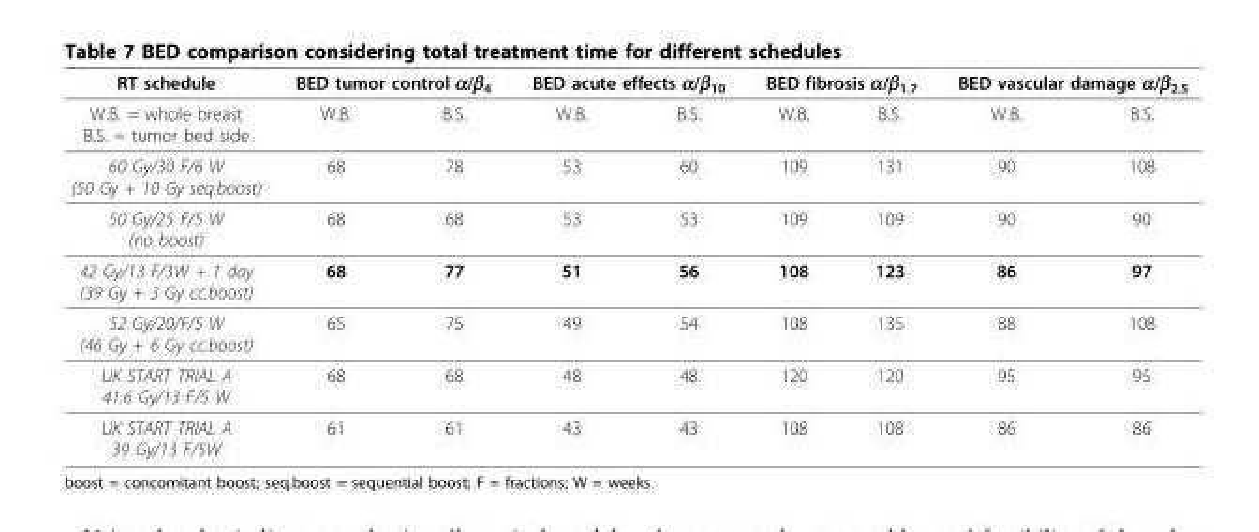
<table><thead><tr><td rowspan="2">RT schedule W.B. = whole breast B.S. = tumor bed side</td><td colspan="2">BED tumor control α/β4</td><td colspan="2">BED acute effects α/β10</td><td colspan="2">BED fibrosis α/β1.7</td><td colspan="2">BED vascular damage α/β2.5</td></tr><tr><td>W.B.</td><td>B.S.</td><td>W.B.</td><td>B.S.</td><td>W.B.</td><td>B.S.</td><td>W.B.</td><td>B.S.</td></tr></thead><tbody><tr><td>60 Gy/30 F/6 W (50 Gy + 10 Gy seq.boost)</td><td>68</td><td>78</td><td>53</td><td>60</td><td>109</td><td>131</td><td>90</td><td>108</td></tr><tr><td>50 Gy/25 F/5 W (no boost)</td><td>68</td><td>68</td><td>53</td><td>53</td><td>109</td><td>109</td><td>90</td><td>90</td></tr><tr><td>42 Gy/13 F/3W + 1 day (39 Gy + 3 Gy cc.boost)</td><td>68</td><td>77</td><td>51</td><td>56</td><td>108</td><td>123</td><td>86</td><td>97</td></tr><tr><td>52 Gy/20/F/5 W (46 Gy + 6 Gy cc.boost)</td><td>65</td><td>75</td><td>49</td><td>54</td><td>108</td><td>135</td><td>88</td><td>108</td></tr><tr><td>UK START TRIAL A 41.6 Gy/13 F/5 W</td><td>68</td><td>68</td><td>48</td><td>48</td><td>120</td><td>120</td><td>95</td><td>95</td></tr><tr><td>UK START TRIAL A 39 Gy/13 F/5W</td><td>61</td><td>61</td><td>43</td><td>43</td><td>108</td><td>108</td><td>86</td><td>86</td></tr></tbody></table>